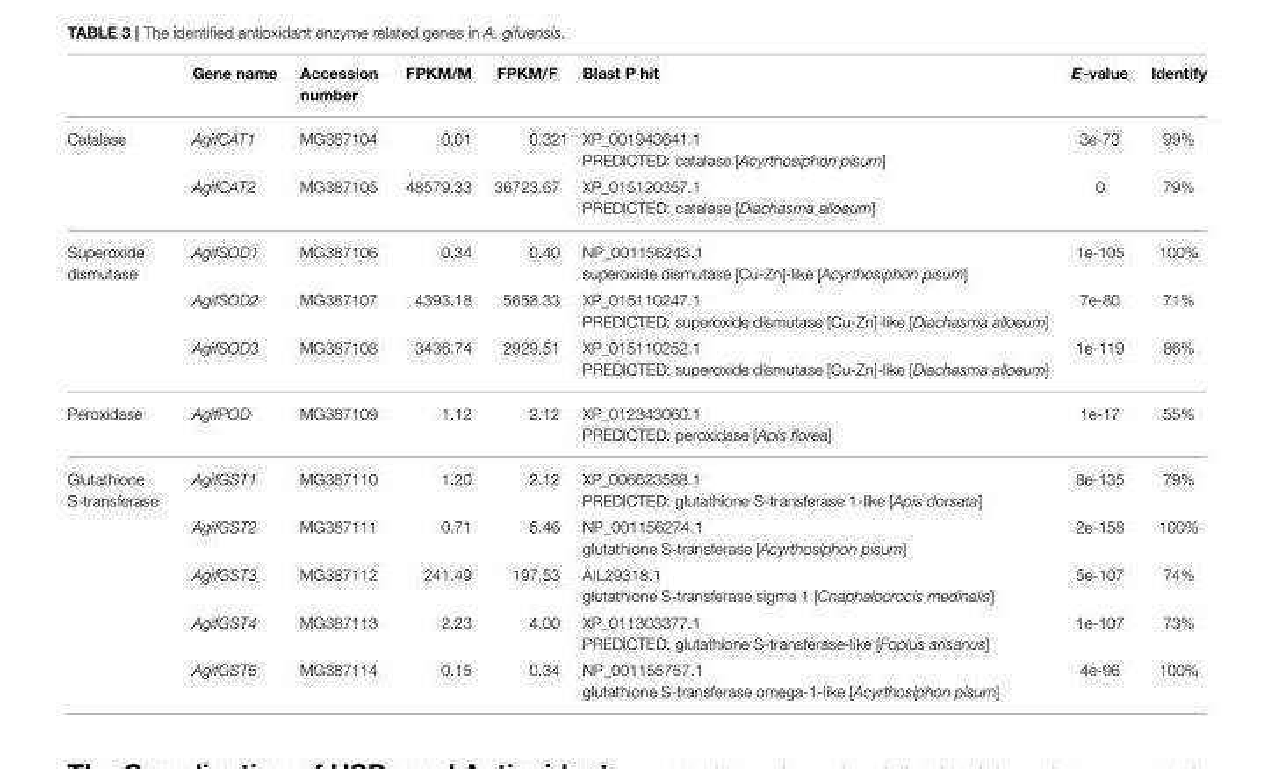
<table><thead><tr><td></td><td>Gene name</td><td>Accession number</td><td>FPKM/M</td><td>FPKM/F</td><td>Blast P hit</td><td>E-value</td><td>Identify</td></tr></thead><tbody><tr><td rowspan="2">Catalase</td><td>AgifCAT1</td><td>MG387104</td><td>0.01</td><td>0.321</td><td>XP_001943641.1 PREDICTED: catalase [Acyrthosiphon pisum]</td><td>3e-73</td><td>99%</td></tr><tr><td>AgifCAT2</td><td>MG387105</td><td>48579.33</td><td>36723.67</td><td>XP_015120357.1 PREDICTED: catalase [Diachasma alloeum]</td><td>0</td><td>79%</td></tr><tr><td rowspan="3">Superoxide dismutase</td><td>AgifSOD1</td><td>MG387106</td><td>0.34</td><td>0.40</td><td>NP_001156243.1 superoxide dismutase [Cu-Zn]-like [Acyrthosiphon pisum]</td><td>1e-105</td><td>100%</td></tr><tr><td>AgifSOD2</td><td>MG387107</td><td>4393.18</td><td>5658.33</td><td>XP_015110247.1 PREDICTED: superoxide dismutase [Cu-Zn]-like [Diachasma alloeum]</td><td>7e-80</td><td>71%</td></tr><tr><td>AgifSOD3</td><td>MG387108</td><td>3436.74</td><td>2929.51</td><td>XP_015110252.1 PREDICTED: superoxide dismutase [Cu-Zn]-like [Diachasma alloeum]</td><td>1e-119</td><td>86%</td></tr><tr><td>Peroxidase</td><td>AgifPOD</td><td>MG387109</td><td>1.12</td><td>2.12</td><td>XP_012343060.1 PREDICTED: peroxidase [Apis florea]</td><td>1e-17</td><td>55%</td></tr><tr><td rowspan="5">Glutathione S-transferase</td><td>AgifGST1</td><td>MG387110</td><td>1.20</td><td>2.12</td><td>XP_006623588.1 PREDICTED: glutathione S-transferase 1-like [Apis dorsata]</td><td>8e-135</td><td>79%</td></tr><tr><td>AgifGST2</td><td>MG387111</td><td>0.71</td><td>5.46</td><td>NP_001156274.1 glutathione S-transferase [Acyrthosiphon pisum]</td><td>2e-158</td><td>100%</td></tr><tr><td>AgifGST3</td><td>MG387112</td><td>241.49</td><td>197.53</td><td>AIL29318.1 glutathione S-transferase sigma 1 [Cnaphalocrocis medinalis]</td><td>5e-107</td><td>74%</td></tr><tr><td>AgifGST4</td><td>MG387113</td><td>2.23</td><td>4.00</td><td>XP_011303377.1 PREDICTED: glutathione S-transferase-like [Fopius arisanus]</td><td>1e-107</td><td>73%</td></tr><tr><td>AgifGST5</td><td>MG387114</td><td>0.15</td><td>0.34</td><td>NP_001155757.1 glutathione S-transferase omega-1-like [Acyrthosiphon pisum]</td><td>4e-96</td><td>100%</td></tr></tbody></table>